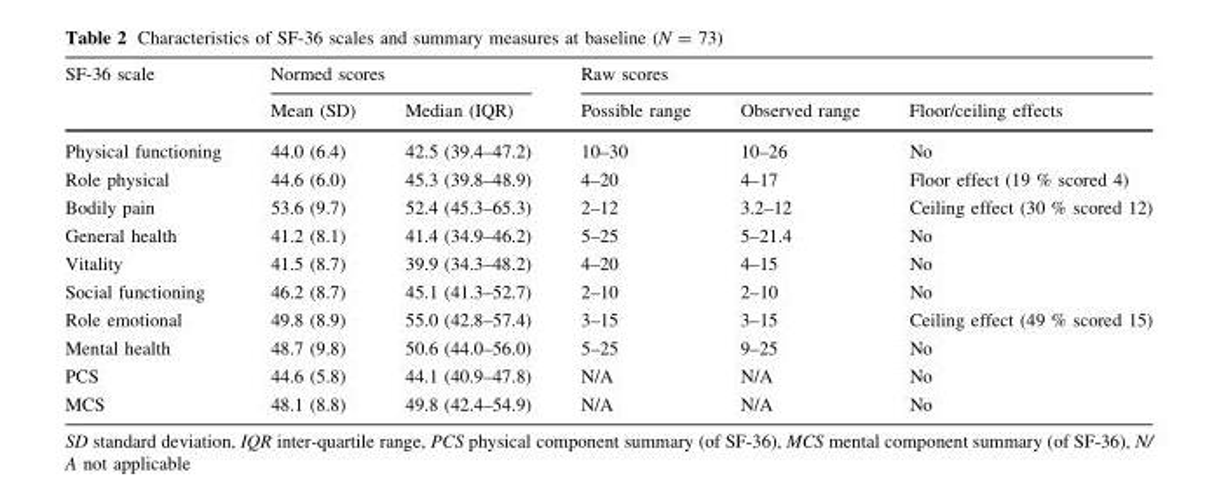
<table><thead><tr><td rowspan="2">SF-36 scale</td><td colspan="2">Normed scores</td><td colspan="3">Raw scores</td></tr><tr><td>Mean (SD)</td><td>Median (IQR)</td><td>Possible range</td><td>Observed range</td><td>Floor/ceiling effects</td></tr></thead><tbody><tr><td>Physical functioning</td><td>44.0 (6.4)</td><td>42.5 (39.4–47.2)</td><td>10–30</td><td>10–26</td><td>No</td></tr><tr><td>Role physical</td><td>44.6 (6.0)</td><td>45.3 (39.8–48.9)</td><td>4–20</td><td>4–17</td><td>Floor effect (19 % scored 4)</td></tr><tr><td>Bodily pain</td><td>53.6 (9.7)</td><td>52.4 (45.3–65.3)</td><td>2–12</td><td>3.2–12</td><td>Ceiling effect (30 % scored 12)</td></tr><tr><td>General health</td><td>41.2 (8.1)</td><td>41.4 (34.9–46.2)</td><td>5–25</td><td>5–21.4</td><td>No</td></tr><tr><td>Vitality</td><td>41.5 (8.7)</td><td>39.9 (34.3–48.2)</td><td>4–20</td><td>4–15</td><td>No</td></tr><tr><td>Social functioning</td><td>46.2 (8.7)</td><td>45.1 (41.3–52.7)</td><td>2–10</td><td>2–10</td><td>No</td></tr><tr><td>Role emotional</td><td>49.8 (8.9)</td><td>55.0 (42.8–57.4)</td><td>3–15</td><td>3–15</td><td>Ceiling effect (49 % scored 15)</td></tr><tr><td>Mental health</td><td>48.7 (9.8)</td><td>50.6 (44.0–56.0)</td><td>5–25</td><td>9–25</td><td>No</td></tr><tr><td>PCS</td><td>44.6 (5.8)</td><td>44.1 (40.9–47.8)</td><td>N/A</td><td>N/A</td><td>No</td></tr><tr><td>MCS</td><td>48.1 (8.8)</td><td>49.8 (42.4–54.9)</td><td>N/A</td><td>N/A</td><td>No</td></tr></tbody></table>